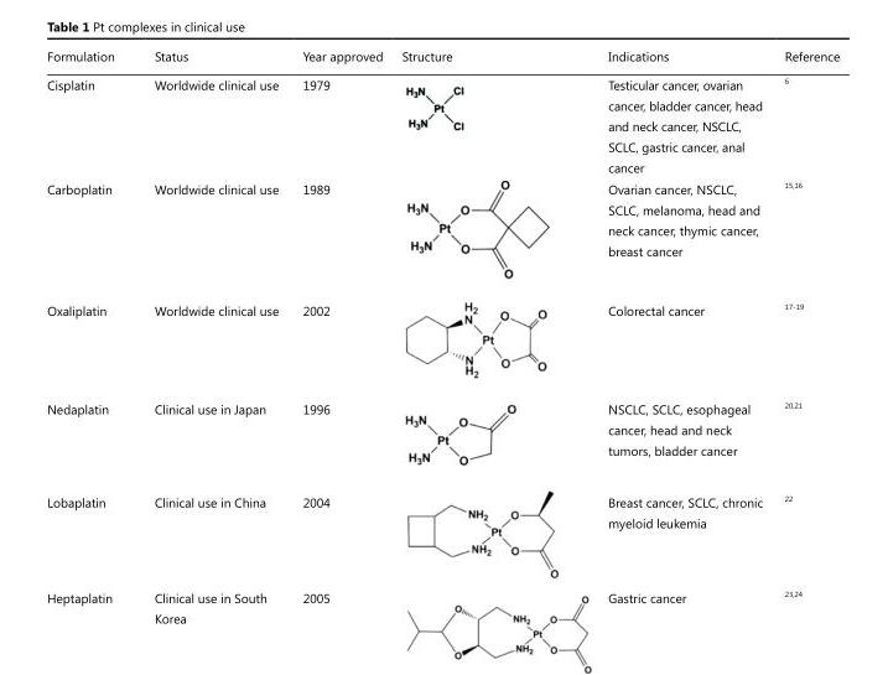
<table><thead><tr><td>Formulation</td><td>Status</td><td>Year approved</td><td>Structure</td><td>Indications</td><td>Reference</td></tr></thead><tbody><tr><td>Cisplatin</td><td>Worldwide clinical use</td><td>1979</td><td></td><td>Testicular cancer, ovarian cancer, bladder cancer, head and neck cancer, NSCLC, SCLC, gastric cancer, anal cancer</td><td><sup>6</sup></td></tr><tr><td>Carboplatin</td><td>Worldwide clinical use</td><td>1989</td><td></td><td>Ovarian cancer, NSCLC, SCLC, melanoma, head and neck cancer, thymic cancer, breast cancer</td><td><sup>15,16</sup></td></tr><tr><td>Oxaliplatin</td><td>Worldwide clinical use</td><td>2002</td><td></td><td>Colorectal cancer</td><td><sup>17-19</sup></td></tr><tr><td>Nedaplatin</td><td>Clinical use in Japan</td><td>1996</td><td></td><td>NSCLC, SCLC, esophageal cancer, head and neck tumors, bladder cancer</td><td><sup>20,21</sup></td></tr><tr><td>Lobaplatin</td><td>Clinical use in China</td><td>2004</td><td></td><td>Breast cancer, SCLC, chronic myeloid leukemia</td><td><sup>22</sup></td></tr><tr><td>Heptaplatin</td><td>Clinical use in South Korea</td><td>2005</td><td></td><td>Gastric cancer</td><td><sup>23,24</sup></td></tr></tbody></table>